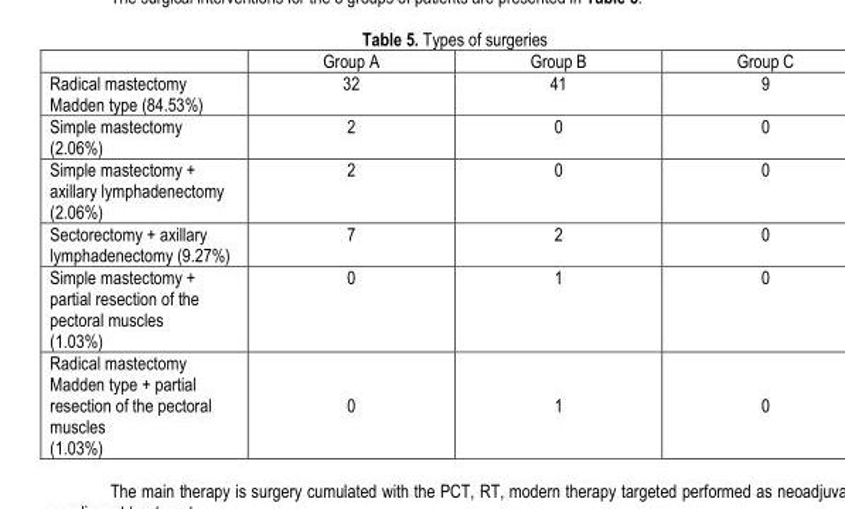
<table><thead><tr><td></td><td>Group A</td><td>Group B</td><td>Group C</td></tr></thead><tbody><tr><td>Radical mastectomy Madden type (84.53%)</td><td>32</td><td>41</td><td>9</td></tr><tr><td>Simple mastectomy (2.06%)</td><td>2</td><td>0</td><td>0</td></tr><tr><td>Simple mastectomy + axillary lymphadenectomy (2.06%)</td><td>2</td><td>0</td><td>0</td></tr><tr><td>Sectorectomy + axillary lymphadenectomy (9.27%)</td><td>7</td><td>2</td><td>0</td></tr><tr><td>Simple mastectomy + partial resection of the pectoral muscles (1.03%)</td><td>0</td><td>1</td><td>0</td></tr><tr><td>Radical mastectomy Madden type + partial resection of the pectoral muscles (1.03%)</td><td>0</td><td>1</td><td>0</td></tr></tbody></table>